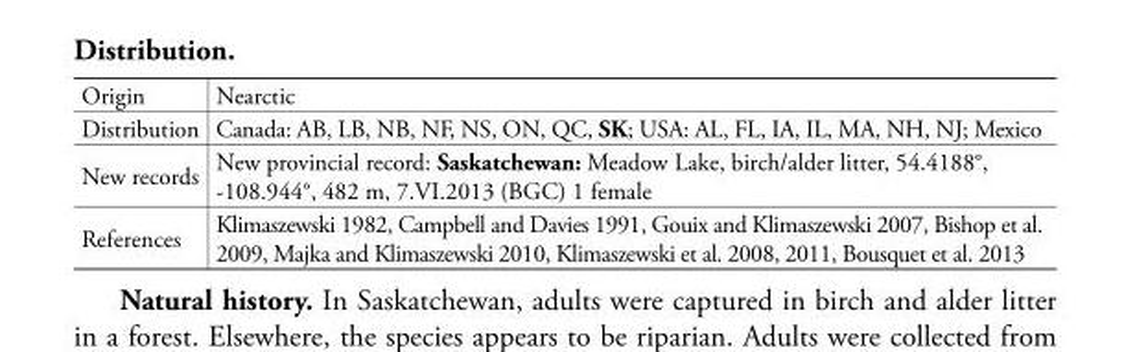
<table><tbody><tr><td>Origin</td><td>Nearctic</td></tr><tr><td>Distribution</td><td>Canada: AB, LB, NB, NF, NS, ON, QC, SK; USA: AL, FL, IA, IL, MA, NH, NJ; Mexico</td></tr><tr><td>New records</td><td>New provincial record: Saskatchewan: Meadow Lake, birch/alder litter, 54.4188°, -108.944°, 482 m, 7.VI.2013 (BGC) 1 female</td></tr><tr><td>References</td><td>Klimaszewski 1982, Campbell and Davies 1991, Gouix and Klimaszewski 2007, Bishop et al. 2009, Majka and Klimaszewski 2010, Klimaszewski et al. 2008, 2011, Bousquet et al. 2013</td></tr></tbody></table>